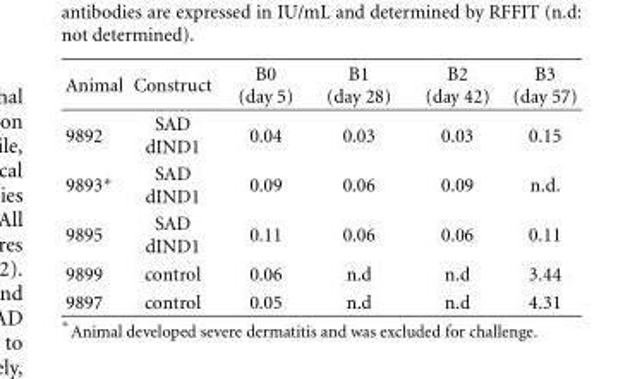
<table><thead><tr><td>Animal</td><td>Construct</td><td>B0 (day 5)</td><td>B1 (day 28)</td><td>B2 (day 42)</td><td>B3 (day 57)</td></tr></thead><tbody><tr><td>9892</td><td>SAD dIND1</td><td>0.04</td><td>0.03</td><td>0.03</td><td>0.15</td></tr><tr><td>9893∗</td><td>SAD dIND1</td><td>0.09</td><td>0.06</td><td>0.09</td><td>n.d.</td></tr><tr><td>9895</td><td>SAD dIND1</td><td>0.11</td><td>0.06</td><td>0.06</td><td>0.11</td></tr><tr><td>9899</td><td>control</td><td>0.06</td><td>n.d</td><td>n.d</td><td>3.44</td></tr><tr><td>9897</td><td>control</td><td>0.05</td><td>n.d</td><td>n.d</td><td>4.31</td></tr></tbody></table>